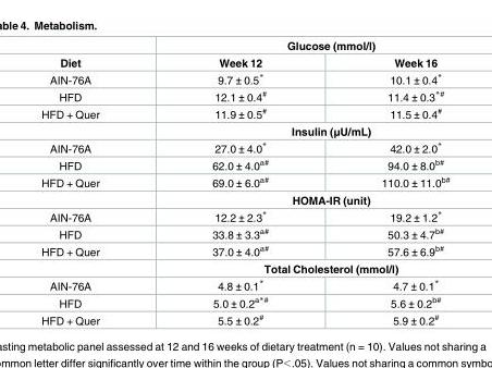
<table><thead><tr><td rowspan="2">Diet</td><td colspan="2">Glucose (mmol/l)</td></tr><tr><td>Week 12</td><td>Week 16</td></tr></thead><tbody><tr><td>AIN-76A</td><td>9.7 ± 0.5*</td><td>10.1 ± 0.4*</td></tr><tr><td>HFD</td><td>12.1 ± 0.4<sup>#</sup></td><td>11.4 ± 0.3<sup>*#</sup></td></tr><tr><td rowspan="2">HFD + Quer</td><td>11.9 ± 0.5<sup>#</sup></td><td>11.5 ± 0.4<sup>#</sup></td></tr><tr><td colspan="2">Insulin (μU/mL)</td></tr><tr><td>AIN-76A</td><td>27.0 ± 4.0*</td><td>42.0 ± 2.0*</td></tr><tr><td>HFD</td><td>62.0 ± 4.0<sup>a#</sup></td><td>94.0 ± 8.0<sup>b#</sup></td></tr><tr><td rowspan="2">HFD + Quer</td><td>69.0 ± 6.0<sup>a#</sup></td><td>110.0 ± 11.0<sup>b#</sup></td></tr><tr><td colspan="2">HOMA-IR (unit)</td></tr><tr><td>AIN-76A</td><td>12.2 ± 2.3*</td><td>19.2 ± 1.2*</td></tr><tr><td>HFD</td><td>33.8 ± 3.3<sup>a#</sup></td><td>50.3 ± 4.7<sup>b#</sup></td></tr><tr><td rowspan="2">HFD + Quer</td><td>37.0 ± 4.0<sup>a#</sup></td><td>57.6 ± 6.9<sup>b#</sup></td></tr><tr><td colspan="2">Total Cholesterol (mmol/l)</td></tr><tr><td>AIN-76A</td><td>4.8 ± 0.1*</td><td>4.7 ± 0.1*</td></tr><tr><td>HFD</td><td>5.0 ± 0.2<sup>a*#</sup></td><td>5.6 ± 0.2<sup>b#</sup></td></tr><tr><td>HFD + Quer</td><td>5.5 ± 0.2<sup>#</sup></td><td>5.9 ± 0.2<sup>#</sup></td></tr></tbody></table>